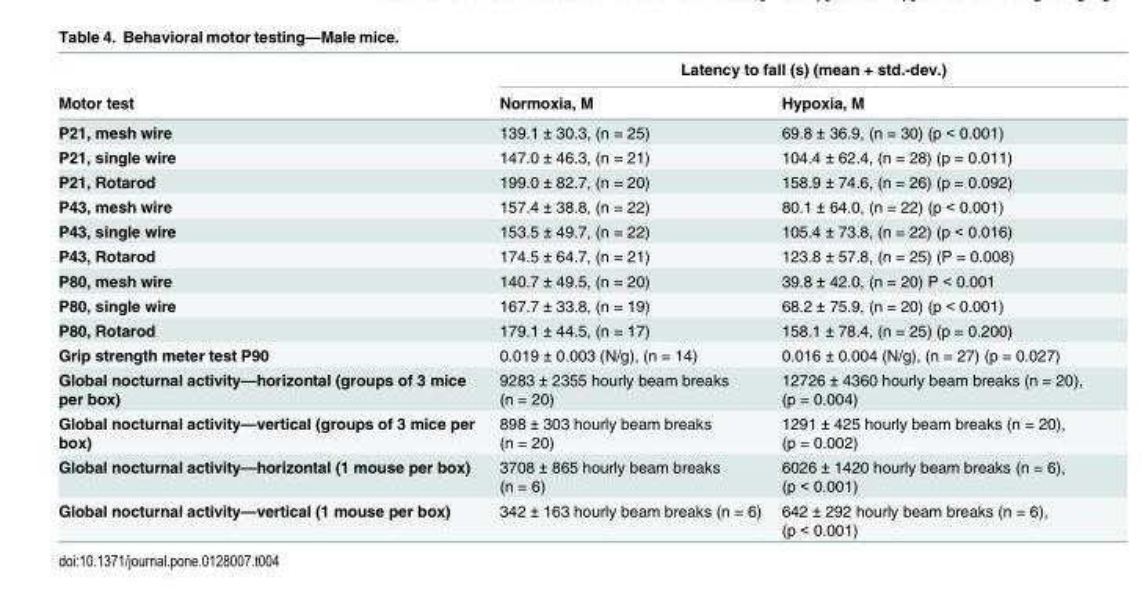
<table><thead><tr><td rowspan="2">Motor test</td><td colspan="2">Latency to fall (s) (mean + std.-dev.)</td></tr><tr><td>Normoxia, M</td><td>Hypoxia, M</td></tr></thead><tbody><tr><td>P21, mesh wire</td><td>139.1 ± 30.3, (n = 25)</td><td>69.8 ± 36.9, (n = 30) (p &lt; 0.001)</td></tr><tr><td>P21, single wire</td><td>147.0 ± 46.3, (n = 21)</td><td>104.4 ± 62.4, (n = 28) (p = 0.011)</td></tr><tr><td>P21, Rotarod</td><td>199.0 ± 82.7, (n = 20)</td><td>158.9 ± 74.6, (n = 26) (p = 0.092)</td></tr><tr><td>P43, mesh wire</td><td>157.4 ± 38.8, (n = 22)</td><td>80.1 ± 64.0, (n = 22) (p &lt; 0.001)</td></tr><tr><td>P43, single wire</td><td>153.5 ± 49.7, (n = 22)</td><td>105.4 ± 73.8, (n = 22) (p &lt; 0.016)</td></tr><tr><td>P43, Rotarod</td><td>174.5 ± 64.7, (n = 21)</td><td>123.8 ± 57.8, (n = 25) (P = 0.008)</td></tr><tr><td>P80, mesh wire</td><td>140.7 ± 49.5, (n = 20)</td><td>39.8 ± 42.0, (n = 20) P &lt; 0.001</td></tr><tr><td>P80, single wire</td><td>167.7 ± 33.8, (n = 19)</td><td>68.2 ± 75.9, (n = 20) (p &lt; 0.001)</td></tr><tr><td>P80, Rotarod</td><td>179.1 ± 44.5, (n = 17)</td><td>158.1 ± 78.4, (n = 25) (p = 0.200)</td></tr><tr><td>Grip strength meter test P90</td><td>0.019 ± 0.003 (N/g), (n = 14)</td><td>0.016 ± 0.004 (N/g), (n = 27) (p = 0.027)</td></tr><tr><td>Global nocturnal activity—horizontal (groups of 3 mice per box)</td><td>9283 ± 2355 hourly beam breaks (n = 20)</td><td>12726 ± 4360 hourly beam breaks (n = 20), (p = 0.004)</td></tr><tr><td>Global nocturnal activity—vertical (groups of 3 mice per box)</td><td>898 ± 303 hourly beam breaks (n = 20)</td><td>1291 ± 425 hourly beam breaks (n = 20), (p = 0.002)</td></tr><tr><td>Global nocturnal activity—horizontal (1 mouse per box)</td><td>3708 ± 865 hourly beam breaks (n = 6)</td><td>6026 ± 1420 hourly beam breaks (n = 6), (p &lt; 0.001)</td></tr><tr><td>Global nocturnal activity—vertical (1 mouse per box)</td><td>342 ± 163 hourly beam breaks (n = 6)</td><td>642 ± 292 hourly beam breaks (n = 6), (p &lt; 0.001)</td></tr></tbody></table>